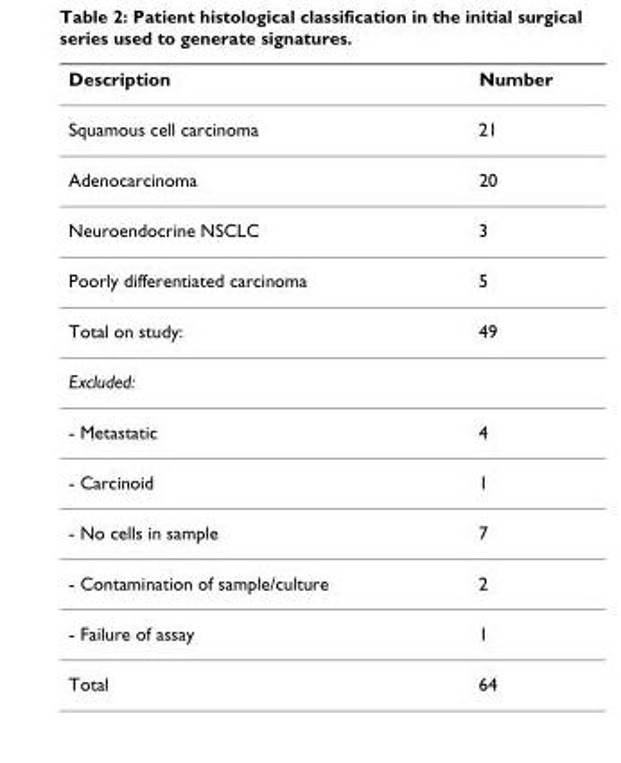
<table><thead><tr><td>Description</td><td>Number</td></tr></thead><tbody><tr><td>Squamous cell carcinoma</td><td>21</td></tr><tr><td>Adenocarcinoma</td><td>20</td></tr><tr><td>Neuroendocrine NSCLC</td><td>3</td></tr><tr><td>Poorly differentiated carcinoma</td><td>5</td></tr><tr><td>Total on study:</td><td>49</td></tr><tr><td colspan="2">Excluded:</td></tr><tr><td>- Metastatic</td><td>4</td></tr><tr><td>- Carcinoid</td><td>1</td></tr><tr><td>- No cells in sample</td><td>7</td></tr><tr><td>- Contamination of sample/culture</td><td>2</td></tr><tr><td>- Failure of assay</td><td>1</td></tr><tr><td>Total</td><td>64</td></tr></tbody></table>